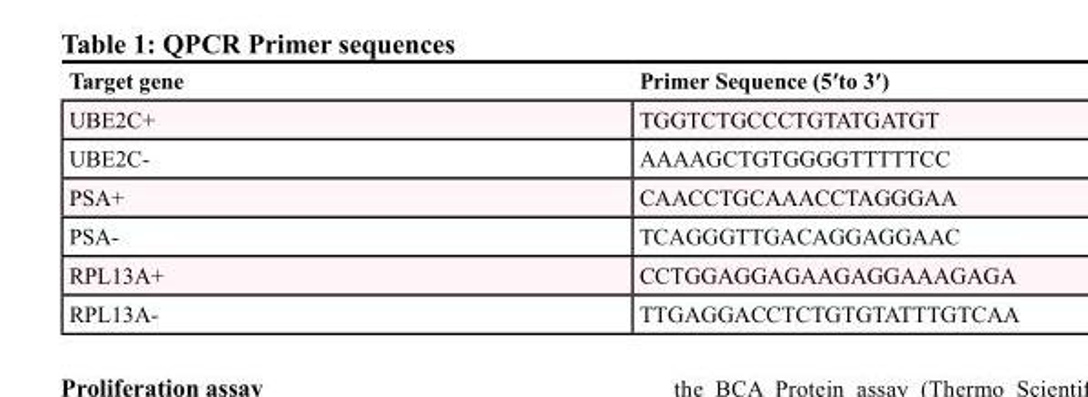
<table><thead><tr><td>Target gene</td><td>Primer Sequence (5ʹto 3ʹ)</td></tr></thead><tbody><tr><td>UBE2C+</td><td>TGGTCTGCCCTGTATGATGT</td></tr><tr><td>UBE2C-</td><td>AAAAGCTGTGGGGTTTTTCC</td></tr><tr><td>PSA+</td><td>CAACCTGCAAACCTAGGGAA</td></tr><tr><td>PSA-</td><td>TCAGGGTTGACAGGAGGAAC</td></tr><tr><td>RPL13A+</td><td>CCTGGAGGAGAAGAGGAAAGAGA</td></tr><tr><td>RPL13A-</td><td>TTGAGGACCTCTGTGTATTTGTCAA</td></tr></tbody></table>